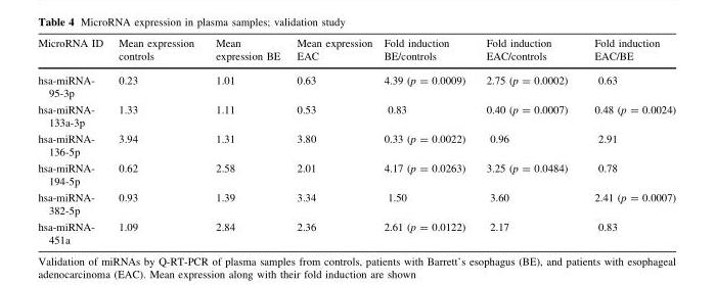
<table><thead><tr><td>MicroRNA ID</td><td>Mean expression controls</td><td>Mean expression BE</td><td>Mean expression EAC</td><td>Fold induction BE/controls</td><td>Fold induction EAC/controls</td><td>Fold induction EAC/BE</td></tr></thead><tbody><tr><td>hsa-miRNA- 95-3p</td><td>0.23</td><td>1.01</td><td>0.63</td><td>4.39 (p = 0.0009)</td><td>2.75 (p = 0.0002)</td><td>0.63</td></tr><tr><td>hsa-miRNA- 133a-3p</td><td>1.33</td><td>1.11</td><td>0.53</td><td>0.83</td><td>0.40 (p = 0.0007)</td><td>0.48 (p = 0.0024)</td></tr><tr><td>hsa-miRNA- 136-5p</td><td>3.94</td><td>1.31</td><td>3.80</td><td>0.33 (p = 0.0022)</td><td>0.96</td><td>2.91</td></tr><tr><td>hsa-miRNA- 194-5p</td><td>0.62</td><td>2.58</td><td>2.01</td><td>4.17 (p = 0.0263)</td><td>3.25 (p = 0.0484)</td><td>0.78</td></tr><tr><td>hsa-miRNA- 382-5p</td><td>0.93</td><td>1.39</td><td>3.34</td><td>1.50</td><td>3.60</td><td>2.41 (p = 0.0007)</td></tr><tr><td>hsa-miRNA- 451a</td><td>1.09</td><td>2.84</td><td>2.36</td><td>2.61 (p = 0.0122)</td><td>2.17</td><td>0.83</td></tr></tbody></table>